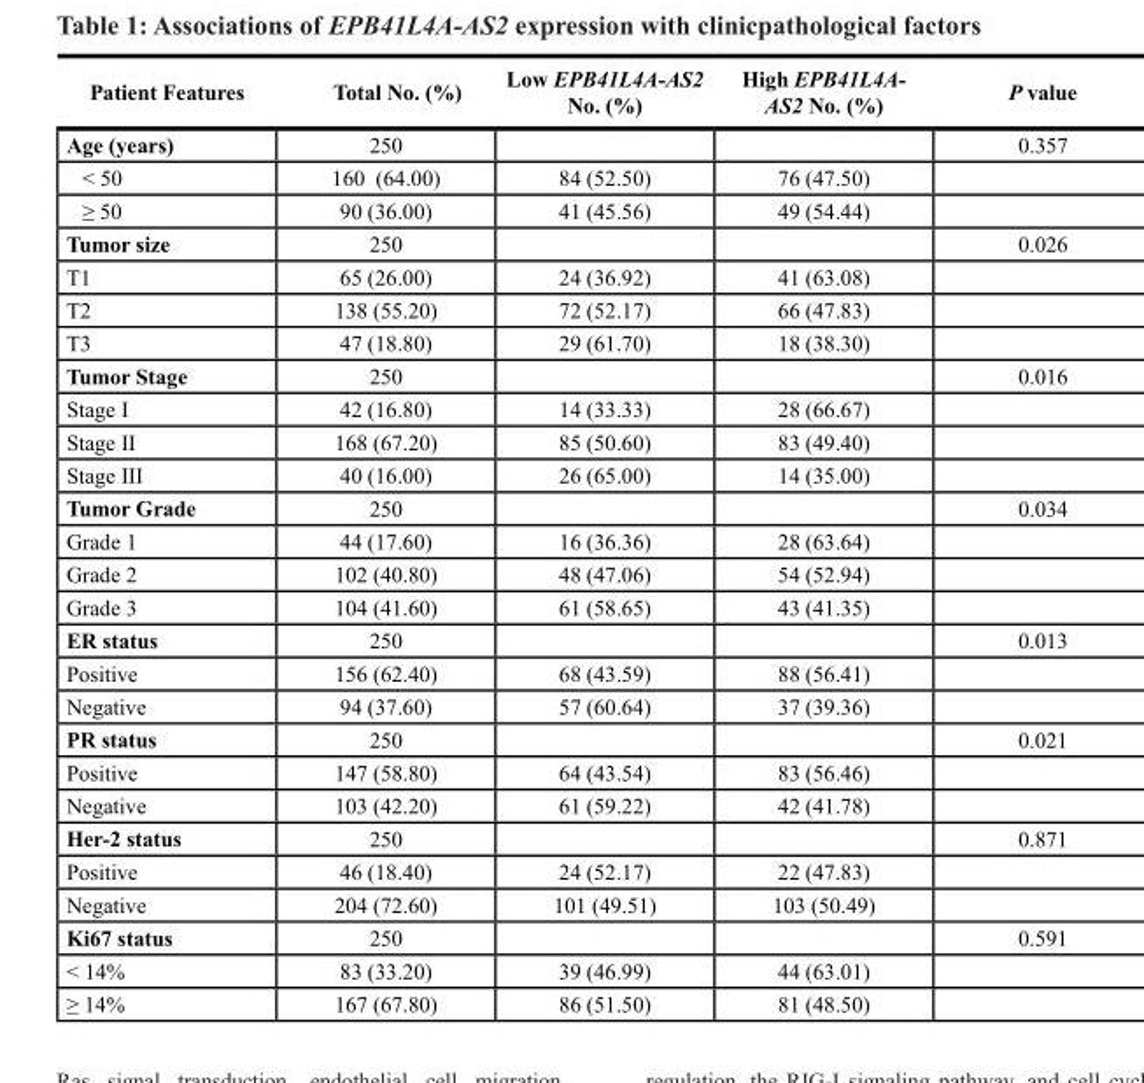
<table><thead><tr><td>Patient Features</td><td>Total No. (%)</td><td>Low EPB41L4A-AS2 No. (%)</td><td>High EPB41L4A- AS2 No. (%)</td><td>P value</td></tr></thead><tbody><tr><td>Age (years)</td><td>250</td><td></td><td></td><td>0.357</td></tr><tr><td>&lt; 50</td><td>160 (64.00)</td><td>84 (52.50)</td><td>76 (47.50)</td><td></td></tr><tr><td>≥ 50</td><td>90 (36.00)</td><td>41 (45.56)</td><td>49 (54.44)</td><td></td></tr><tr><td>Tumor size</td><td>250</td><td></td><td></td><td>0.026</td></tr><tr><td>T1</td><td>65 (26.00)</td><td>24 (36.92)</td><td>41 (63.08)</td><td></td></tr><tr><td>T2</td><td>138 (55.20)</td><td>72 (52.17)</td><td>66 (47.83)</td><td></td></tr><tr><td>T3</td><td>47 (18.80)</td><td>29 (61.70)</td><td>18 (38.30)</td><td></td></tr><tr><td>Tumor Stage</td><td>250</td><td></td><td></td><td>0.016</td></tr><tr><td>Stage I</td><td>42 (16.80)</td><td>14 (33.33)</td><td>28 (66.67)</td><td></td></tr><tr><td>Stage II</td><td>168 (67.20)</td><td>85 (50.60)</td><td>83 (49.40)</td><td></td></tr><tr><td>Stage III</td><td>40 (16.00)</td><td>26 (65.00)</td><td>14 (35.00)</td><td></td></tr><tr><td>Tumor Grade</td><td>250</td><td></td><td></td><td>0.034</td></tr><tr><td>Grade 1</td><td>44 (17.60)</td><td>16 (36.36)</td><td>28 (63.64)</td><td></td></tr><tr><td>Grade 2</td><td>102 (40.80)</td><td>48 (47.06)</td><td>54 (52.94)</td><td></td></tr><tr><td>Grade 3</td><td>104 (41.60)</td><td>61 (58.65)</td><td>43 (41.35)</td><td></td></tr><tr><td>ER status</td><td>250</td><td></td><td></td><td>0.013</td></tr><tr><td>Positive</td><td>156 (62.40)</td><td>68 (43.59)</td><td>88 (56.41)</td><td></td></tr><tr><td>Negative</td><td>94 (37.60)</td><td>57 (60.64)</td><td>37 (39.36)</td><td></td></tr><tr><td>PR status</td><td>250</td><td></td><td></td><td>0.021</td></tr><tr><td>Positive</td><td>147 (58.80)</td><td>64 (43.54)</td><td>83 (56.46)</td><td></td></tr><tr><td>Negative</td><td>103 (42.20)</td><td>61 (59.22)</td><td>42 (41.78)</td><td></td></tr><tr><td>Her-2 status</td><td>250</td><td></td><td></td><td>0.871</td></tr><tr><td>Positive</td><td>46 (18.40)</td><td>24 (52.17)</td><td>22 (47.83)</td><td></td></tr><tr><td>Negative</td><td>204 (72.60)</td><td>101 (49.51)</td><td>103 (50.49)</td><td></td></tr><tr><td>Ki67 status</td><td>250</td><td></td><td></td><td>0.591</td></tr><tr><td>&lt; 14%</td><td>83 (33.20)</td><td>39 (46.99)</td><td>44 (63.01)</td><td></td></tr><tr><td>≥ 14%</td><td>167 (67.80)</td><td>86 (51.50)</td><td>81 (48.50)</td><td></td></tr></tbody></table>